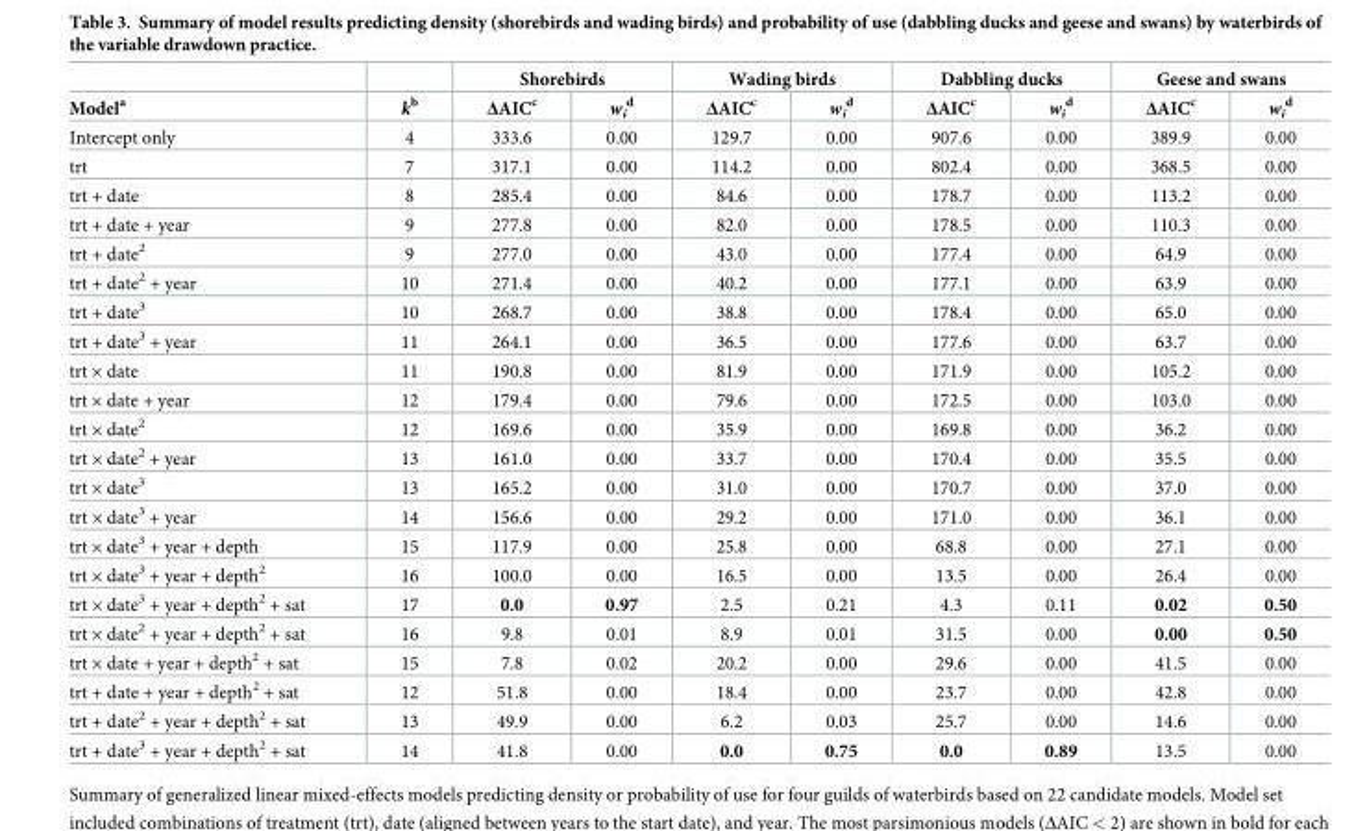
<table><thead><tr><td rowspan="2">Model<sup>a</sup></td><td rowspan="2">k<sup>b</sup></td><td colspan="2">Shorebirds</td><td colspan="2">Wading birds</td><td colspan="2">Dabbling ducks</td><td colspan="2">Geese and swans</td></tr><tr><td>ΔAIC<sup>c</sup></td><td>w<sub>i</sub> <sup>d</sup></td><td>ΔAIC<sup>c</sup></td><td>w<sub>i</sub> <sup>d</sup></td><td>ΔAIC<sup>c</sup></td><td>w<sub>i</sub> <sup>d</sup></td><td>ΔAIC<sup>c</sup></td><td>w<sub>i</sub> <sup>d</sup></td></tr></thead><tbody><tr><td>Intercept only</td><td>4</td><td>333.6</td><td>0.00</td><td>129.7</td><td>0.00</td><td>907.6</td><td>0.00</td><td>389.9</td><td>0.00</td></tr><tr><td>trt</td><td>7</td><td>317.1</td><td>0.00</td><td>114.2</td><td>0.00</td><td>802.4</td><td>0.00</td><td>368.5</td><td>0.00</td></tr><tr><td>trt + date</td><td>8</td><td>285.4</td><td>0.00</td><td>84.6</td><td>0.00</td><td>178.7</td><td>0.00</td><td>113.2</td><td>0.00</td></tr><tr><td>trt + date + year</td><td>9</td><td>277.8</td><td>0.00</td><td>82.0</td><td>0.00</td><td>178.5</td><td>0.00</td><td>110.3</td><td>0.00</td></tr><tr><td>trt + date<sup>2</sup></td><td>9</td><td>277.0</td><td>0.00</td><td>43.0</td><td>0.00</td><td>177.4</td><td>0.00</td><td>64.9</td><td>0.00</td></tr><tr><td>trt + date<sup>2</sup> + year</td><td>10</td><td>271.4</td><td>0.00</td><td>40.2</td><td>0.00</td><td>177.1</td><td>0.00</td><td>63.9</td><td>0.00</td></tr><tr><td>trt + date<sup>3</sup></td><td>10</td><td>268.7</td><td>0.00</td><td>38.8</td><td>0.00</td><td>178.4</td><td>0.00</td><td>65.0</td><td>0.00</td></tr><tr><td>trt + date<sup>3</sup> + year</td><td>11</td><td>264.1</td><td>0.00</td><td>36.5</td><td>0.00</td><td>177.6</td><td>0.00</td><td>63.7</td><td>0.00</td></tr><tr><td>trt × date</td><td>11</td><td>190.8</td><td>0.00</td><td>81.9</td><td>0.00</td><td>171.9</td><td>0.00</td><td>105.2</td><td>0.00</td></tr><tr><td>trt × date + year</td><td>12</td><td>179.4</td><td>0.00</td><td>79.6</td><td>0.00</td><td>172.5</td><td>0.00</td><td>103.0</td><td>0.00</td></tr><tr><td>trt × date<sup>2</sup></td><td>12</td><td>169.6</td><td>0.00</td><td>35.9</td><td>0.00</td><td>169.8</td><td>0.00</td><td>36.2</td><td>0.00</td></tr><tr><td>trt × date<sup>2</sup> + year</td><td>13</td><td>161.0</td><td>0.00</td><td>33.7</td><td>0.00</td><td>170.4</td><td>0.00</td><td>35.5</td><td>0.00</td></tr><tr><td>trt × date<sup>3</sup></td><td>13</td><td>165.2</td><td>0.00</td><td>31.0</td><td>0.00</td><td>170.7</td><td>0.00</td><td>37.0</td><td>0.00</td></tr><tr><td>trt × date<sup>3</sup> + year</td><td>14</td><td>156.6</td><td>0.00</td><td>29.2</td><td>0.00</td><td>171.0</td><td>0.00</td><td>36.1</td><td>0.00</td></tr><tr><td>trt × date<sup>3</sup> + year + depth</td><td>15</td><td>117.9</td><td>0.00</td><td>25.8</td><td>0.00</td><td>68.8</td><td>0.00</td><td>27.1</td><td>0.00</td></tr><tr><td>trt × date<sup>3</sup> + year + depth<sup>2</sup></td><td>16</td><td>100.0</td><td>0.00</td><td>16.5</td><td>0.00</td><td>13.5</td><td>0.00</td><td>26.4</td><td>0.00</td></tr><tr><td>trt × date<sup>3</sup> + year + depth<sup>2</sup> + sat</td><td>17</td><td>0.0</td><td>0.97</td><td>2.5</td><td>0.21</td><td>4.3</td><td>0.11</td><td>0.02</td><td>0.50</td></tr><tr><td>trt × date<sup>2</sup> + year + depth<sup>2</sup> + sat</td><td>16</td><td>9.8</td><td>0.01</td><td>8.9</td><td>0.01</td><td>31.5</td><td>0.00</td><td>0.00</td><td>0.50</td></tr><tr><td>trt × date + year + depth<sup>2</sup> + sat</td><td>15</td><td>7.8</td><td>0.02</td><td>20.2</td><td>0.00</td><td>29.6</td><td>0.00</td><td>41.5</td><td>0.00</td></tr><tr><td>trt + date + year + depth<sup>2</sup> + sat</td><td>12</td><td>51.8</td><td>0.00</td><td>18.4</td><td>0.00</td><td>23.7</td><td>0.00</td><td>42.8</td><td>0.00</td></tr><tr><td>trt + date<sup>2</sup> + year + depth<sup>2</sup> + sat</td><td>13</td><td>49.9</td><td>0.00</td><td>6.2</td><td>0.03</td><td>25.7</td><td>0.00</td><td>14.6</td><td>0.00</td></tr><tr><td>trt + date<sup>3</sup> + year + depth<sup>2</sup> + sat</td><td>14</td><td>41.8</td><td>0.00</td><td>0.0</td><td>0.75</td><td>0.0</td><td>0.89</td><td>13.5</td><td>0.00</td></tr></tbody></table>